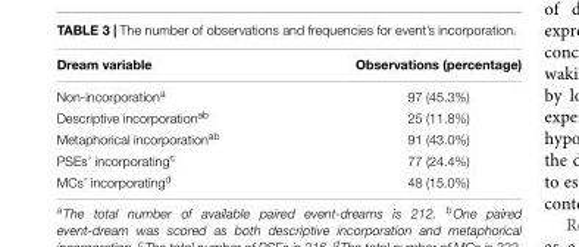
<table><thead><tr><td>Dream variable</td><td>Observations (percentage)</td></tr></thead><tbody><tr><td>Non-incorporation<sup>a</sup></td><td>97 (45.3%)</td></tr><tr><td>Descriptive incorporation<sup>ab</sup></td><td>25 (11.8%)</td></tr><tr><td>Metaphorical incorporation<sup>ab</sup></td><td>91 (43.0%)</td></tr><tr><td>PSEs’ incorporating<sup>c</sup></td><td>77 (24.4%)</td></tr><tr><td>MCs’ incorporating<sup>d</sup></td><td>48 (15.0%)</td></tr></tbody></table>